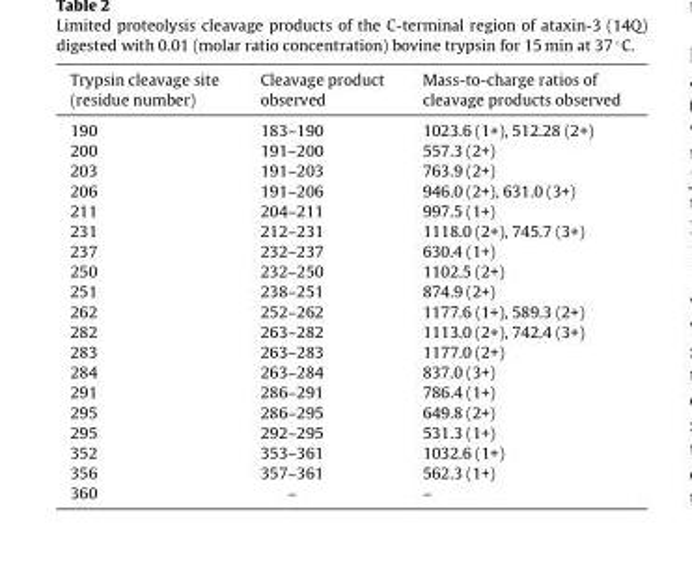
<table><thead><tr><td>Trypsin cleavage site (residue number)</td><td>Cleavage product observed</td><td>Mass-to-charge ratios of cleavage products observed</td></tr></thead><tbody><tr><td>190</td><td>183–190</td><td>1023.6 (1+), 512.28 (2+)</td></tr><tr><td>200</td><td>191–200</td><td>557.3 (2+)</td></tr><tr><td>203</td><td>191–203</td><td>763.9 (2+)</td></tr><tr><td>206</td><td>191–206</td><td>946.0 (2+), 631.0 (3+)</td></tr><tr><td>211</td><td>204–211</td><td>997.5 (1+)</td></tr><tr><td>231</td><td>212–231</td><td>1118.0 (2+), 745.7 (3+)</td></tr><tr><td>237</td><td>232–237</td><td>630.4 (1+)</td></tr><tr><td>250</td><td>232–250</td><td>1102.5 (2+)</td></tr><tr><td>251</td><td>238–251</td><td>874.9 (2+)</td></tr><tr><td>262</td><td>252–262</td><td>1177.6 (1+), 589.3 (2+)</td></tr><tr><td>282</td><td>263–282</td><td>1113.0 (2+), 742.4 (3+)</td></tr><tr><td>283</td><td>263–283</td><td>1177.0 (2+)</td></tr><tr><td>284</td><td>263–284</td><td>837.0 (3+)</td></tr><tr><td>291</td><td>286–291</td><td>786.4 (1+)</td></tr><tr><td>295</td><td>286–295</td><td>649.8 (2+)</td></tr><tr><td>295</td><td>292–295</td><td>531.3 (1+)</td></tr><tr><td>352</td><td>353–361</td><td>1032.6 (1+)</td></tr><tr><td>356</td><td>357–361</td><td>562.3 (1+)</td></tr><tr><td>360</td><td>–</td><td>–</td></tr></tbody></table>